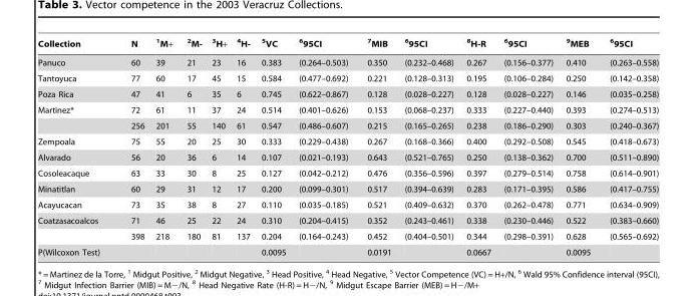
<table><thead><tr><td>Collection</td><td>N</td><td><sup>1</sup>M+</td><td><sup>2</sup>M-</td><td><sup>3</sup>H+</td><td><sup>4</sup>H-</td><td><sup>5</sup>VC</td><td><sup>6</sup>95CI</td><td><sup>7</sup>MIB</td><td><sup>6</sup>95CI</td><td><sup>8</sup>H-R</td><td><sup>6</sup>95CI</td><td><sup>9</sup>MEB</td><td><sup>6</sup>95CI</td></tr></thead><tbody><tr><td>Panuco</td><td>60</td><td>39</td><td>21</td><td>23</td><td>16</td><td>0.383</td><td>(0.264–0.503)</td><td>0.350</td><td>(0.232–0.468)</td><td>0.267</td><td>(0.156–0.377)</td><td>0.410</td><td>(0.263–0.558)</td></tr><tr><td>Tantoyuca</td><td>77</td><td>60</td><td>17</td><td>45</td><td>15</td><td>0.584</td><td>(0.477–0.692)</td><td>0.221</td><td>(0.128–0.313)</td><td>0.195</td><td>(0.106–0.284)</td><td>0.250</td><td>(0.142–0.358)</td></tr><tr><td>Poza Rica</td><td>47</td><td>41</td><td>6</td><td>35</td><td>6</td><td>0.745</td><td>(0.622–0.867)</td><td>0.128</td><td>(0.028–0.227)</td><td>0.128</td><td>(0.028–0.227)</td><td>0.146</td><td>(0.035–0.258)</td></tr><tr><td rowspan="2">Martinez*</td><td>72</td><td>61</td><td>11</td><td>37</td><td>24</td><td>0.514</td><td>(0.401–0.626)</td><td>0.153</td><td>(0.068–0.237)</td><td>0.333</td><td>(0.227–0.440)</td><td>0.393</td><td>(0.274–0.513)</td></tr><tr><td>256</td><td>201</td><td>55</td><td>140</td><td>61</td><td>0.547</td><td>(0.486–0.607)</td><td>0.215</td><td>(0.165–0.265)</td><td>0.238</td><td>(0.186–0.290)</td><td>0.303</td><td>(0.240–0.367)</td></tr><tr><td>Zempoala</td><td>75</td><td>55</td><td>20</td><td>25</td><td>30</td><td>0.333</td><td>(0.229–0.438)</td><td>0.267</td><td>(0.168–0.366)</td><td>0.400</td><td>(0.292–0.508)</td><td>0.545</td><td>(0.418–0.673)</td></tr><tr><td>Alvarado</td><td>56</td><td>20</td><td>36</td><td>6</td><td>14</td><td>0.107</td><td>(0.021–0.193)</td><td>0.643</td><td>(0.521–0.765)</td><td>0.250</td><td>(0.138–0.362)</td><td>0.700</td><td>(0.511–0.890)</td></tr><tr><td>Cosoleacaque</td><td>63</td><td>33</td><td>30</td><td>8</td><td>25</td><td>0.127</td><td>(0.042–0.212)</td><td>0.476</td><td>(0.356–0.596)</td><td>0.397</td><td>(0.279–0.514)</td><td>0.758</td><td>(0.614–0.901)</td></tr><tr><td>Minatitlan</td><td>60</td><td>29</td><td>31</td><td>12</td><td>17</td><td>0.200</td><td>(0.099–0.301)</td><td>0.517</td><td>(0.394–0.639)</td><td>0.283</td><td>(0.171–0.395)</td><td>0.586</td><td>(0.417–0.755)</td></tr><tr><td>Acayucacan</td><td>73</td><td>35</td><td>38</td><td>8</td><td>27</td><td>0.110</td><td>(0.035–0.185)</td><td>0.521</td><td>(0.409–0.632)</td><td>0.370</td><td>(0.262–0.478)</td><td>0.771</td><td>(0.634–0.909)</td></tr><tr><td rowspan="2">Coatzasacoalcos</td><td>71</td><td>46</td><td>25</td><td>22</td><td>24</td><td>0.310</td><td>(0.204–0.415)</td><td>0.352</td><td>(0.243–0.461)</td><td>0.338</td><td>(0.230–0.446)</td><td>0.522</td><td>(0.383–0.660)</td></tr><tr><td>398</td><td>218</td><td>180</td><td>81</td><td>137</td><td>0.204</td><td>(0.164–0.243)</td><td>0.452</td><td>(0.404–0.501)</td><td>0.344</td><td>(0.298–0.391)</td><td>0.628</td><td>(0.565–0.692)</td></tr><tr><td>P(Wilcoxon Test)</td><td></td><td></td><td></td><td></td><td></td><td>0.0095</td><td></td><td>0.0191</td><td></td><td>0.0667</td><td></td><td>0.0095</td><td></td></tr></tbody></table>